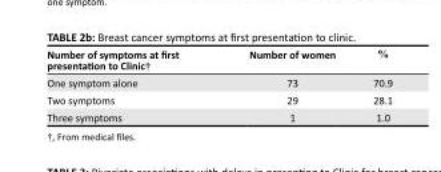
<table><thead><tr><td>Number of symptoms at first presentation to Clinic†</td><td>Number of women</td><td>%</td></tr></thead><tbody><tr><td>One symptom alone</td><td>73</td><td>70.9</td></tr><tr><td>Two symptoms</td><td>29</td><td>28.1</td></tr><tr><td>Three symptoms</td><td>1</td><td>1.0</td></tr></tbody></table>